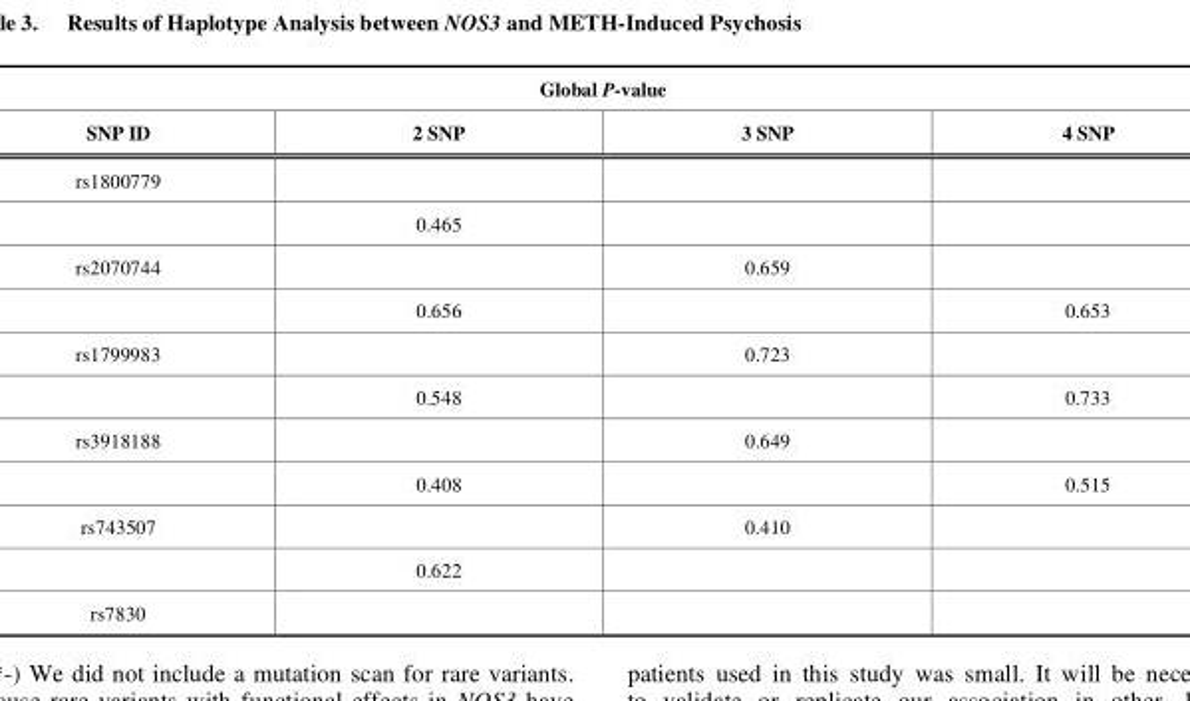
<table><thead><tr><td colspan="4">Global P-value</td></tr><tr><td>SNP ID</td><td>2 SNP</td><td>3 SNP</td><td>4 SNP</td></tr></thead><tbody><tr><td colspan="4">rs1800779</td></tr><tr><td></td><td>0.465</td><td></td><td></td></tr><tr><td rowspan="2">rs2070744</td><td></td><td>0.659</td><td></td></tr><tr><td>0.656</td><td></td><td>0.653</td></tr><tr><td rowspan="2">rs1799983</td><td></td><td>0.723</td><td></td></tr><tr><td>0.548</td><td></td><td>0.733</td></tr><tr><td rowspan="2">rs3918188</td><td></td><td>0.649</td><td></td></tr><tr><td>0.408</td><td></td><td>0.515</td></tr><tr><td rowspan="2">rs743507</td><td></td><td>0.410</td><td></td></tr><tr><td>0.622</td><td></td><td></td></tr><tr><td>rs7830</td><td></td><td></td><td></td></tr></tbody></table>